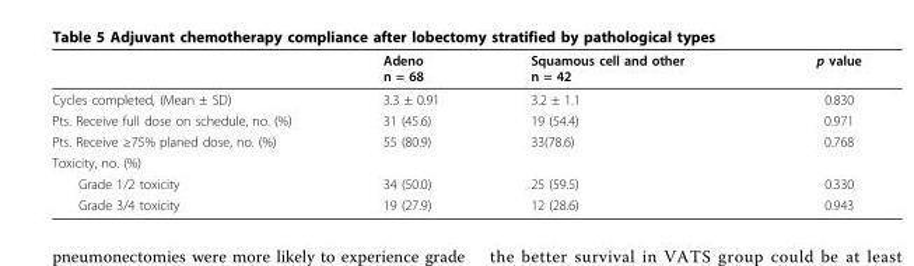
<table><thead><tr><td></td><td>Adeno n = 68</td><td>Squamous cell and other n = 42</td><td>p value</td></tr></thead><tbody><tr><td>Cycles completed, (Mean ± SD)</td><td>3.3 ± 0.91</td><td>3.2 ± 1.1</td><td>0.830</td></tr><tr><td>Pts. Receive full dose on schedule, no. (%)</td><td>31 (45.6)</td><td>19 (54.4)</td><td>0.971</td></tr><tr><td>Pts. Receive ≥75% planed dose, no. (%)</td><td>55 (80.9)</td><td>33(78.6)</td><td>0.768</td></tr><tr><td colspan="4">Toxicity, no. (%)</td></tr><tr><td>Grade 1/2 toxicity</td><td>34 (50.0)</td><td>25 (59.5)</td><td>0.330</td></tr><tr><td>Grade 3/4 toxicity</td><td>19 (27.9)</td><td>12 (28.6)</td><td>0.943</td></tr></tbody></table>